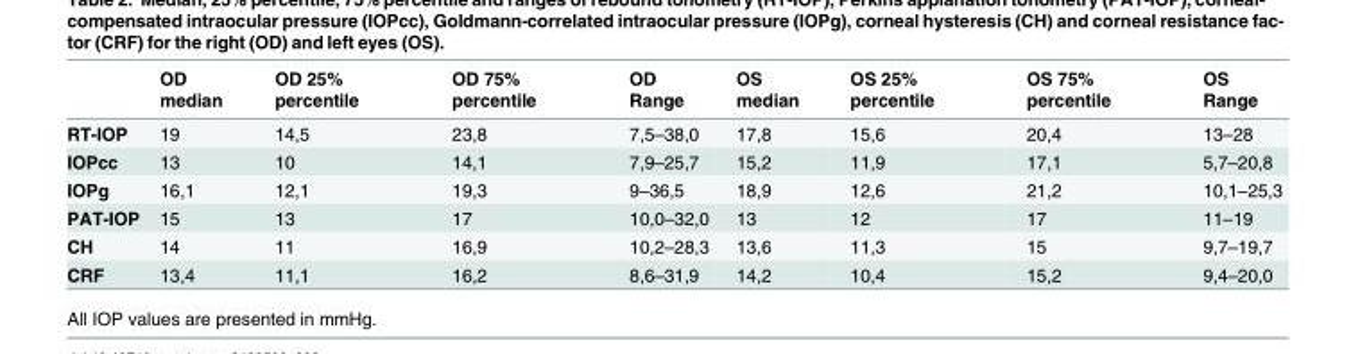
<table><thead><tr><td></td><td>OD median</td><td>OD 25% percentile</td><td>OD 75% percentile</td><td>OD Range</td><td>OS median</td><td>OS 25% percentile</td><td>OS 75% percentile</td><td>OS Range</td></tr></thead><tbody><tr><td>RT-IOP</td><td>19</td><td>14,5</td><td>23,8</td><td>7,5–38,0</td><td>17,8</td><td>15,6</td><td>20,4</td><td>13–28</td></tr><tr><td>IOPcc</td><td>13</td><td>10</td><td>14,1</td><td>7,9–25,7</td><td>15,2</td><td>11,9</td><td>17,1</td><td>5,7–20,8</td></tr><tr><td>IOPg</td><td>16,1</td><td>12,1</td><td>19,3</td><td>9–36,5</td><td>18,9</td><td>12,6</td><td>21,2</td><td>10,1–25,3</td></tr><tr><td>PAT-IOP</td><td>15</td><td>13</td><td>17</td><td>10,0–32,0</td><td>13</td><td>12</td><td>17</td><td>11–19</td></tr><tr><td>CH</td><td>14</td><td>11</td><td>16,9</td><td>10,2–28,3</td><td>13,6</td><td>11,3</td><td>15</td><td>9,7–19,7</td></tr><tr><td>CRF</td><td>13,4</td><td>11,1</td><td>16,2</td><td>8,6–31,9</td><td>14,2</td><td>10,4</td><td>15,2</td><td>9,4–20,0</td></tr></tbody></table>